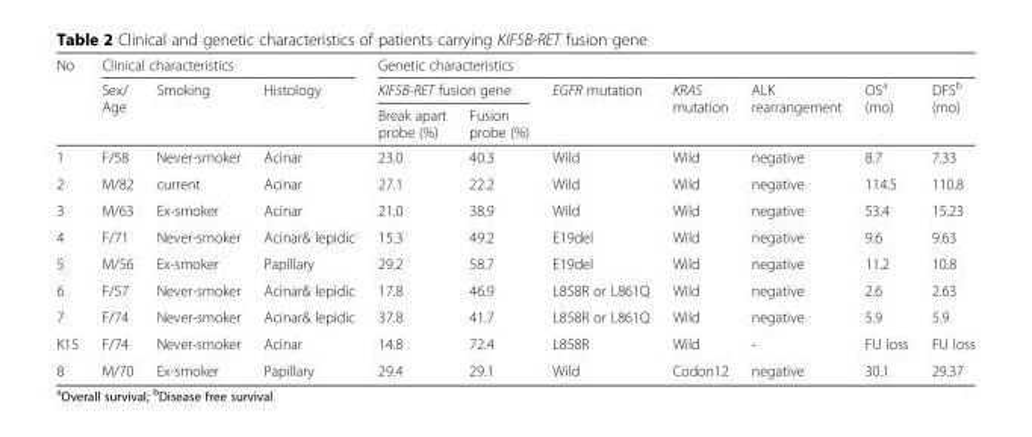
<table><thead><tr><td rowspan="3">No</td><td colspan="3">Clinical characteristics</td><td colspan="7">Genetic characteristics</td></tr><tr><td rowspan="2">Sex/ Age</td><td rowspan="2">Smoking</td><td rowspan="2">Histology</td><td colspan="2">KIF5B-RET fusion gene</td><td rowspan="2">EGFR mutation</td><td rowspan="2">KRAS mutation</td><td rowspan="2">ALK rearrangement</td><td rowspan="2">OS<sup>a</sup> (mo)</td><td rowspan="2">DFS<sup>b</sup> (mo)</td></tr><tr><td>Break apart probe (%)</td><td>Fusion probe (%)</td></tr></thead><tbody><tr><td>1</td><td>F/58</td><td>Never-smoker</td><td>Acinar</td><td>23.0</td><td>40.3</td><td>Wild</td><td>Wild</td><td>negative</td><td>8.7</td><td>7.33</td></tr><tr><td>2</td><td>M/82</td><td>current</td><td>Acinar</td><td>27.1</td><td>22.2</td><td>Wild</td><td>Wild</td><td>negative</td><td>114.5</td><td>110.8</td></tr><tr><td>3</td><td>M/63</td><td>Ex-smoker</td><td>Acinar</td><td>21.0</td><td>38.9</td><td>Wild</td><td>Wild</td><td>negative</td><td>53.4</td><td>15.23</td></tr><tr><td>4</td><td>F/71</td><td>Never-smoker</td><td>Acinar&amp; lepidic</td><td>15.3</td><td>49.2</td><td>E19del</td><td>Wild</td><td>negative</td><td>9.6</td><td>9.63</td></tr><tr><td>5</td><td>M/56</td><td>Ex-smoker</td><td>Papillary</td><td>29.2</td><td>58.7</td><td>E19del</td><td>Wild</td><td>negative</td><td>11.2</td><td>10.8</td></tr><tr><td>6</td><td>F/57</td><td>Never-smoker</td><td>Acinar&amp; lepidic</td><td>17.8</td><td>46.9</td><td>L858R or L861Q</td><td>Wild</td><td>negative</td><td>2.6</td><td>2.63</td></tr><tr><td>7</td><td>F/74</td><td>Never-smoker</td><td>Acinar&amp; lepidic</td><td>37.8</td><td>41.7</td><td>L858R or L861Q</td><td>Wild</td><td>negative</td><td>5.9</td><td>5.9</td></tr><tr><td>K15</td><td>F/74</td><td>Never-smoker</td><td>Acinar</td><td>14.8</td><td>72.4</td><td>L858R</td><td>Wild</td><td>-</td><td>FU loss</td><td>FU loss</td></tr><tr><td>8</td><td>M/70</td><td>Ex-smoker</td><td>Papillary</td><td>29.4</td><td>29.1</td><td>Wild</td><td>Codon12</td><td>negative</td><td>30.1</td><td>29.37</td></tr></tbody></table>